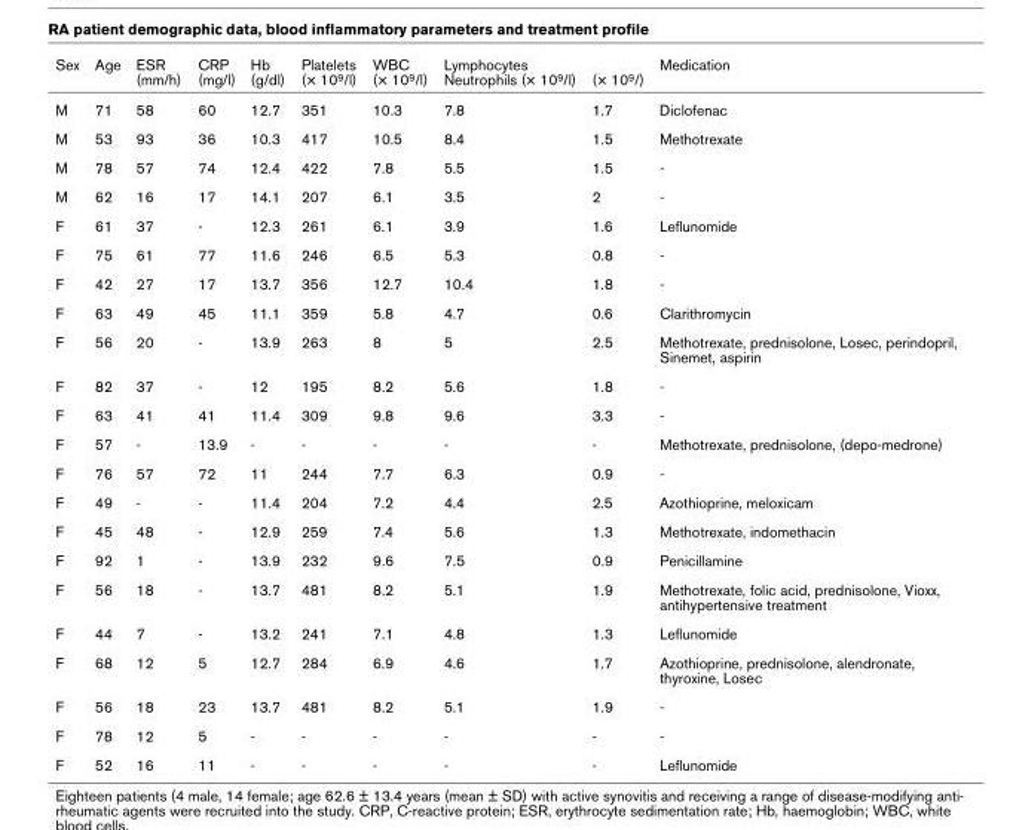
<table><thead><tr><td>Sex</td><td>Age</td><td>ESR (mm/h)</td><td>CRP (mg/l)</td><td>Hb (g/dl)</td><td>Platelets (× 10<sup>9</sup>/l)</td><td>WBC (× 10<sup>9</sup>/l)</td><td>Lymphocytes Neutrophils (× 10<sup>9</sup>/l)</td><td>(× 10<sup>9</sup>/)</td><td>Medication</td></tr></thead><tbody><tr><td>M</td><td>71</td><td>58</td><td>60</td><td>12.7</td><td>351</td><td>10.3</td><td>7.8</td><td>1.7</td><td>Diclofenac</td></tr><tr><td>M</td><td>53</td><td>93</td><td>36</td><td>10.3</td><td>417</td><td>10.5</td><td>8.4</td><td>1.5</td><td>Methotrexate</td></tr><tr><td>M</td><td>78</td><td>57</td><td>74</td><td>12.4</td><td>422</td><td>7.8</td><td>5.5</td><td>1.5</td><td>-</td></tr><tr><td>M</td><td>62</td><td>16</td><td>17</td><td>14.1</td><td>207</td><td>6.1</td><td>3.5</td><td>2</td><td>-</td></tr><tr><td>F</td><td>61</td><td>37</td><td>-</td><td>12.3</td><td>261</td><td>6.1</td><td>3.9</td><td>1.6</td><td>Leflunomide</td></tr><tr><td>F</td><td>75</td><td>61</td><td>77</td><td>11.6</td><td>246</td><td>6.5</td><td>5.3</td><td>0.8</td><td>-</td></tr><tr><td>F</td><td>42</td><td>27</td><td>17</td><td>13.7</td><td>356</td><td>12.7</td><td>10.4</td><td>1.8</td><td>-</td></tr><tr><td>F</td><td>63</td><td>49</td><td>45</td><td>11.1</td><td>359</td><td>5.8</td><td>4.7</td><td>0.6</td><td>Clarithromycin</td></tr><tr><td>F</td><td>56</td><td>20</td><td>-</td><td>13.9</td><td>263</td><td>8</td><td>5</td><td>2.5</td><td>Methotrexate, prednisolone, Losec, perindopril, Sinemet, aspirin</td></tr><tr><td>F</td><td>82</td><td>37</td><td>-</td><td>12</td><td>195</td><td>8.2</td><td>5.6</td><td>1.8</td><td>-</td></tr><tr><td>F</td><td>63</td><td>41</td><td>41</td><td>11.4</td><td>309</td><td>9.8</td><td>9.6</td><td>3.3</td><td>-</td></tr><tr><td>F</td><td>57</td><td>-</td><td>13.9</td><td>-</td><td>-</td><td>-</td><td>-</td><td>-</td><td>Methotrexate, prednisolone, (depo-medrone)</td></tr><tr><td>F</td><td>76</td><td>57</td><td>72</td><td>11</td><td>244</td><td>7.7</td><td>6.3</td><td>0.9</td><td>-</td></tr><tr><td>F</td><td>49</td><td>-</td><td>-</td><td>11.4</td><td>204</td><td>7.2</td><td>4.4</td><td>2.5</td><td>Azothioprine, meloxicam</td></tr><tr><td>F</td><td>45</td><td>48</td><td>-</td><td>12.9</td><td>259</td><td>7.4</td><td>5.6</td><td>1.3</td><td>Methotrexate, indomethacin</td></tr><tr><td>F</td><td>92</td><td>1</td><td>-</td><td>13.9</td><td>232</td><td>9.6</td><td>7.5</td><td>0.9</td><td>Penicillamine</td></tr><tr><td>F</td><td>56</td><td>18</td><td>-</td><td>13.7</td><td>481</td><td>8.2</td><td>5.1</td><td>1.9</td><td>Methotrexate, folic acid, prednisolone, Vioxx, antihypertensive treatment</td></tr><tr><td>F</td><td>44</td><td>7</td><td>-</td><td>13.2</td><td>241</td><td>7.1</td><td>4.8</td><td>1.3</td><td>Leflunomide</td></tr><tr><td>F</td><td>68</td><td>12</td><td>5</td><td>12.7</td><td>284</td><td>6.9</td><td>4.6</td><td>1.7</td><td>Azothioprine, prednisolone, alendronate, thyroxine, Losec</td></tr><tr><td>F</td><td>56</td><td>18</td><td>23</td><td>13.7</td><td>481</td><td>8.2</td><td>5.1</td><td>1.9</td><td>-</td></tr><tr><td>F</td><td>78</td><td>12</td><td>5</td><td>-</td><td>-</td><td>-</td><td>-</td><td>-</td><td>-</td></tr><tr><td>F</td><td>52</td><td>16</td><td>11</td><td>-</td><td>-</td><td>-</td><td>-</td><td>-</td><td>Leflunomide</td></tr></tbody></table>